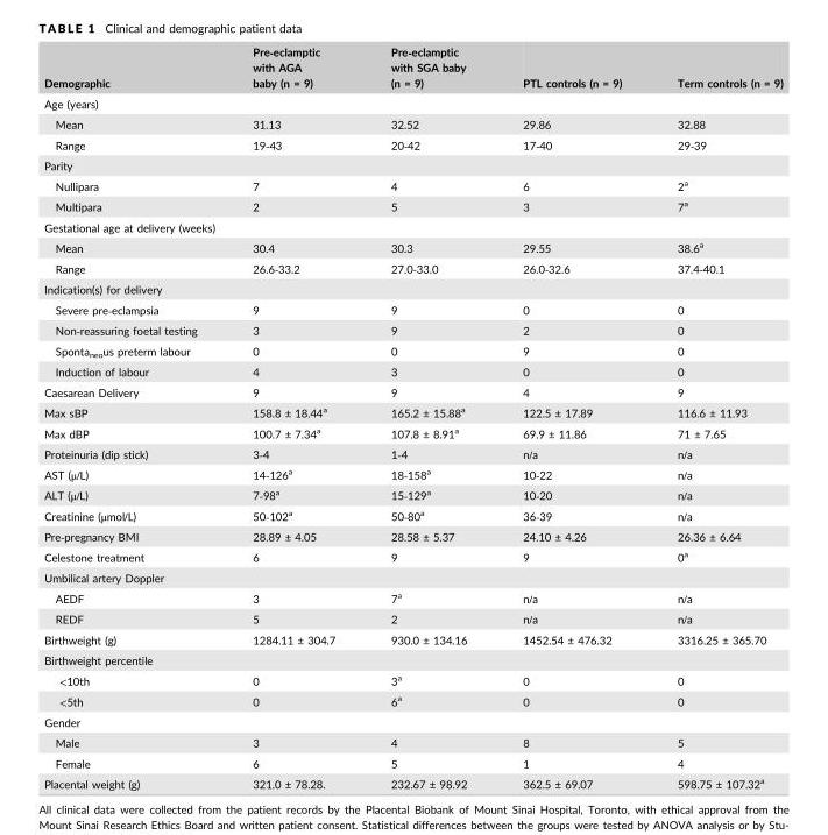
<table><thead><tr><td>Demographic</td><td>Pre‐eclamptic with AGA baby (n = 9)</td><td>Pre‐eclamptic with SGA baby (n = 9)</td><td>PTL controls (n = 9)</td><td>Term controls (n = 9)</td></tr></thead><tbody><tr><td colspan="5">Age (years)</td></tr><tr><td>Mean</td><td>31.13</td><td>32.52</td><td>29.86</td><td>32.88</td></tr><tr><td>Range</td><td>19‐43</td><td>20‐42</td><td>17‐40</td><td>29‐39</td></tr><tr><td colspan="5">Parity</td></tr><tr><td>Nullipara</td><td>7</td><td>4</td><td>6</td><td>2<sup>a</sup></td></tr><tr><td>Multipara</td><td>2</td><td>5</td><td>3</td><td>7<sup>a</sup></td></tr><tr><td colspan="5">Gestational age at delivery (weeks)</td></tr><tr><td>Mean</td><td>30.4</td><td>30.3</td><td>29.55</td><td>38.6<sup>a</sup></td></tr><tr><td>Range</td><td>26.6‐33.2</td><td>27.0‐33.0</td><td>26.0‐32.6</td><td>37.4‐40.1</td></tr><tr><td colspan="5">Indication(s) for delivery</td></tr><tr><td>Severe pre‐eclampsia</td><td>9</td><td>9</td><td>0</td><td>0</td></tr><tr><td>Non‐reassuring foetal testing</td><td>3</td><td>9</td><td>2</td><td>0</td></tr><tr><td>Sponta<sub>neo</sub>us preterm labour</td><td>0</td><td>0</td><td>9</td><td>0</td></tr><tr><td>Induction of labour</td><td>4</td><td>3</td><td>0</td><td>0</td></tr><tr><td>Caesarean Delivery</td><td>9</td><td>9</td><td>4</td><td>9</td></tr><tr><td>Max sBP</td><td>158.8 ± 18.44<sup>a</sup></td><td>165.2 ± 15.88<sup>a</sup></td><td>122.5 ± 17.89</td><td>116.6 ± 11.93</td></tr><tr><td>Max dBP</td><td>100.7 ± 7.34<sup>a</sup></td><td>107.8 ± 8.91<sup>a</sup></td><td>69.9 ± 11.86</td><td>71 ± 7.65</td></tr><tr><td>Proteinuria (dip stick)</td><td>3‐4</td><td>1‐4</td><td>n/a</td><td>n/a</td></tr><tr><td>AST (μ/L)</td><td>14‐126<sup>a</sup></td><td>18‐158<sup>a</sup></td><td>10‐22</td><td>n/a</td></tr><tr><td>ALT (μ/L)</td><td>7‐98<sup>a</sup></td><td>15‐129<sup>a</sup></td><td>10‐20</td><td>n/a</td></tr><tr><td>Creatinine (μmol/L)</td><td>50‐102<sup>a</sup></td><td>50‐80<sup>a</sup></td><td>36‐39</td><td>n/a</td></tr><tr><td>Pre‐pregnancy BMI</td><td>28.89 ± 4.05</td><td>28.58 ± 5.37</td><td>24.10 ± 4.26</td><td>26.36 ± 6.64</td></tr><tr><td>Celestone treatment</td><td>6</td><td>9</td><td>9</td><td>0<sup>a</sup></td></tr><tr><td colspan="5">Umbilical artery Doppler</td></tr><tr><td>AEDF</td><td>3</td><td>7<sup>a</sup></td><td>n/a</td><td>n/a</td></tr><tr><td>REDF</td><td>5</td><td>2</td><td>n/a</td><td>n/a</td></tr><tr><td>Birthweight (g)</td><td>1284.11 ± 304.7</td><td>930.0 ± 134.16</td><td>1452.54 ± 476.32</td><td>3316.25 ± 365.70</td></tr><tr><td colspan="5">Birthweight percentile</td></tr><tr><td>&lt;10th</td><td>0</td><td>3<sup>a</sup></td><td>0</td><td>0</td></tr><tr><td>&lt;5th</td><td>0</td><td>6<sup>a</sup></td><td>0</td><td>0</td></tr><tr><td colspan="5">Gender</td></tr><tr><td>Male</td><td>3</td><td>4</td><td>8</td><td>5</td></tr><tr><td>Female</td><td>6</td><td>5</td><td>1</td><td>4</td></tr><tr><td>Placental weight (g)</td><td>321.0 ± 78.28.</td><td>232.67 ± 98.92</td><td>362.5 ± 69.07</td><td>598.75 ± 107.32<sup>a</sup></td></tr></tbody></table>